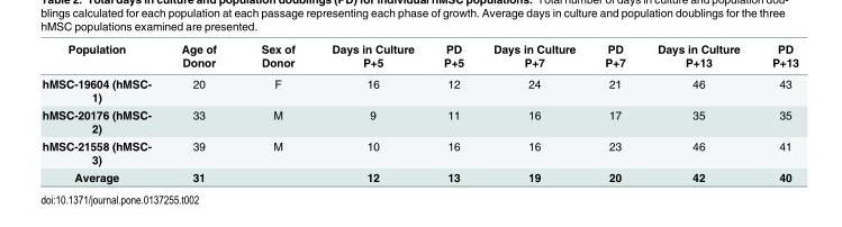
<table><thead><tr><td>Population</td><td>Age of Donor</td><td>Sex of Donor</td><td>Days in Culture P+5</td><td>PD P+5</td><td>Days in Culture P+7</td><td>PD P+7</td><td>Days in Culture P+13</td><td>PD P+13</td></tr></thead><tbody><tr><td>hMSC-19604 (hMSC- 1)</td><td>20</td><td>F</td><td>16</td><td>12</td><td>24</td><td>21</td><td>46</td><td>43</td></tr><tr><td>hMSC-20176 (hMSC- 2)</td><td>33</td><td>M</td><td>9</td><td>11</td><td>16</td><td>17</td><td>35</td><td>35</td></tr><tr><td>hMSC-21558 (hMSC- 3)</td><td>39</td><td>M</td><td>10</td><td>16</td><td>16</td><td>23</td><td>46</td><td>41</td></tr><tr><td>Average</td><td>31</td><td></td><td>12</td><td>13</td><td>19</td><td>20</td><td>42</td><td>40</td></tr></tbody></table>